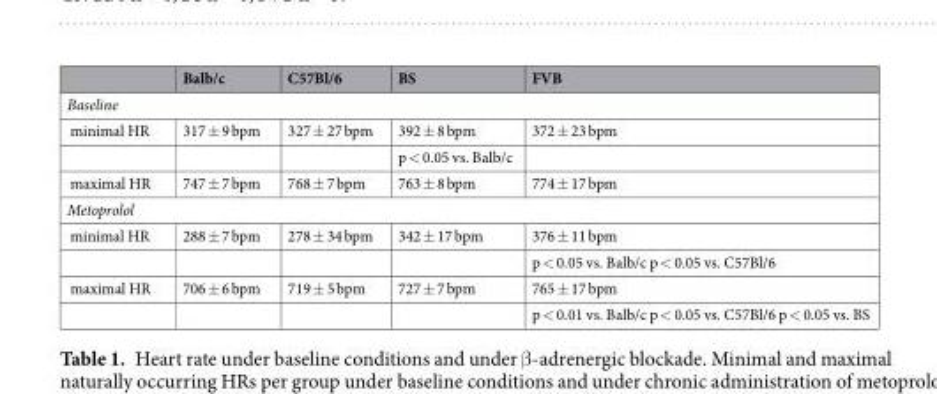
<table><thead><tr><td></td><td>Balb/c</td><td>C57Bl/6</td><td>BS</td><td>FVB</td></tr></thead><tbody><tr><td colspan="5">Baseline</td></tr><tr><td rowspan="2">minimal HR</td><td>317 ± 9 bpm</td><td>327 ± 27 bpm</td><td>392 ± 8 bpm</td><td>372 ± 23 bpm</td></tr><tr><td></td><td></td><td>p &lt; 0.05 vs. Balb/c</td><td></td></tr><tr><td>maximal HR</td><td>747 ± 7 bpm</td><td>768 ± 7 bpm</td><td>763 ± 8 bpm</td><td>774 ± 17 bpm</td></tr><tr><td colspan="5">Metoprolol</td></tr><tr><td rowspan="2">minimal HR</td><td>288 ± 7 bpm</td><td>278 ± 34 bpm</td><td>342 ± 17 bpm</td><td>376 ± 11 bpm</td></tr><tr><td></td><td></td><td></td><td>p &lt; 0.05 vs. Balb/c p &lt; 0.05 vs. C57Bl/6</td></tr><tr><td rowspan="2">maximal HR</td><td>706 ± 6 bpm</td><td>719 ± 5 bpm</td><td>727 ± 7 bpm</td><td>765 ± 17 bpm</td></tr><tr><td></td><td></td><td></td><td>p &lt; 0.01 vs. Balb/c p &lt; 0.05 vs. C57Bl/6 p &lt; 0.05 vs. BS</td></tr></tbody></table>